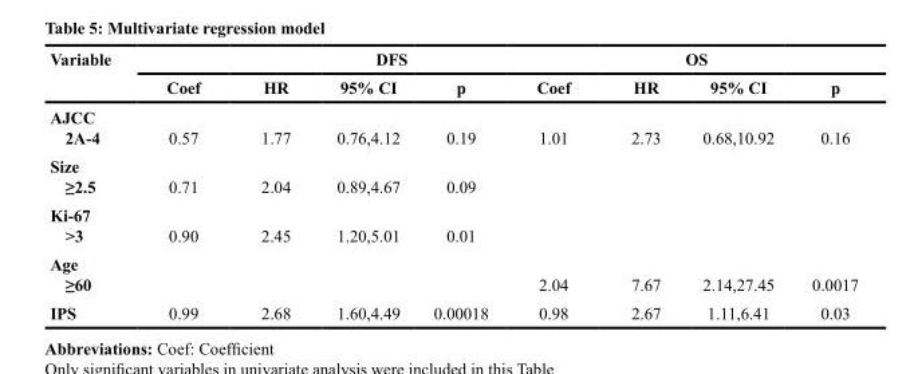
<table><thead><tr><td rowspan="2">Variable</td><td colspan="4">DFS</td><td colspan="4">OS</td></tr><tr><td>Coef</td><td>HR</td><td>95% CI</td><td>p</td><td>Coef</td><td>HR</td><td>95% CI</td><td>p</td></tr></thead><tbody><tr><td>AJCC 2A-4</td><td>0.57</td><td>1.77</td><td>0.76,4.12</td><td>0.19</td><td>1.01</td><td>2.73</td><td>0.68,10.92</td><td>0.16</td></tr><tr><td>Size ≥2.5</td><td>0.71</td><td>2.04</td><td>0.89,4.67</td><td>0.09</td><td colspan="4"></td></tr><tr><td>Ki-67 &gt;3</td><td>0.90</td><td>2.45</td><td>1.20,5.01</td><td>0.01</td><td colspan="4"></td></tr><tr><td>Age ≥60</td><td colspan="4"></td><td>2.04</td><td>7.67</td><td>2.14,27.45</td><td>0.0017</td></tr><tr><td>IPS</td><td>0.99</td><td>2.68</td><td>1.60,4.49</td><td>0.00018</td><td>0.98</td><td>2.67</td><td>1.11,6.41</td><td>0.03</td></tr></tbody></table>